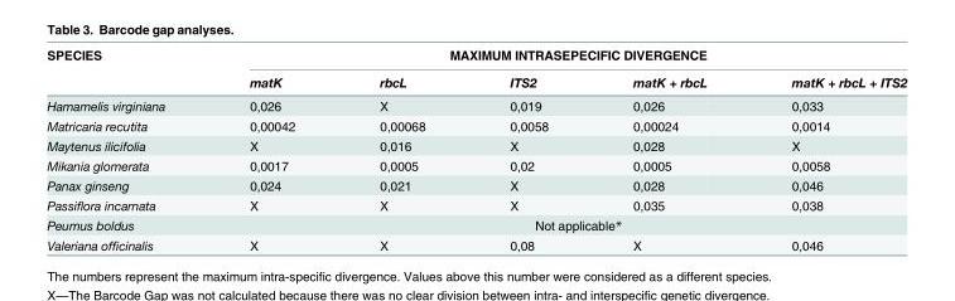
<table><thead><tr><td rowspan="2">SPECIES</td><td colspan="5">MAXIMUM INTRASEPECIFIC DIVERGENCE</td></tr><tr><td>matK</td><td>rbcL</td><td>ITS2</td><td>matK + rbcL</td><td>matK + rbcL + ITS2</td></tr></thead><tbody><tr><td>Hamamelis virginiana</td><td>0,026</td><td>X</td><td>0,019</td><td>0,026</td><td>0,033</td></tr><tr><td>Matricaria recutita</td><td>0,00042</td><td>0,00068</td><td>0,0058</td><td>0,00024</td><td>0,0014</td></tr><tr><td>Maytenus ilicifolia</td><td>X</td><td>0,016</td><td>X</td><td>0,028</td><td>X</td></tr><tr><td>Mikania glomerata</td><td>0,0017</td><td>0,0005</td><td>0,02</td><td>0,0005</td><td>0,0058</td></tr><tr><td>Panax ginseng</td><td>0,024</td><td>0,021</td><td>X</td><td>0,028</td><td>0,046</td></tr><tr><td>Passiflora incarnata</td><td>X</td><td>X</td><td>X</td><td>0,035</td><td>0,038</td></tr><tr><td>Peumus boldus</td><td colspan="5">Not applicable*</td></tr><tr><td>Valeriana officinalis</td><td>X</td><td>X</td><td>0,08</td><td>X</td><td>0,046</td></tr></tbody></table>